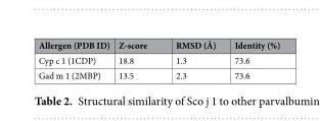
<table><thead><tr><td>Allergen (PDB ID)</td><td>Z-score</td><td>RMSD (Å)</td><td>Identity (%)</td></tr></thead><tbody><tr><td>Cyp c 1 (1CDP)</td><td>18.8</td><td>1.3</td><td>73.6</td></tr><tr><td>Gad m 1 (2MBP)</td><td>13.5</td><td>2.3</td><td>73.6</td></tr></tbody></table>